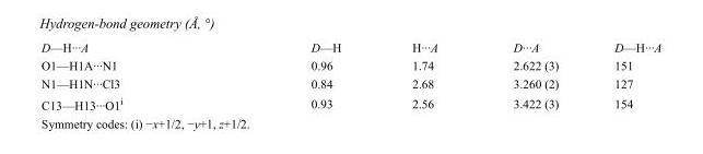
<table><tbody><tr><td>D—H···A</td><td>D—H</td><td>H···A</td><td>D···A</td><td>D—H···A</td></tr><tr><td>O1—H1A···N1</td><td>0.96</td><td>1.74</td><td>2.622 (3)</td><td>151</td></tr><tr><td>N1—H1N···Cl3</td><td>0.84</td><td>2.68</td><td>3.260 (2)</td><td>127</td></tr><tr><td>C13—H13···O1<sup>i</sup></td><td>0.93</td><td>2.56</td><td>3.422 (3)</td><td>154</td></tr></tbody></table>